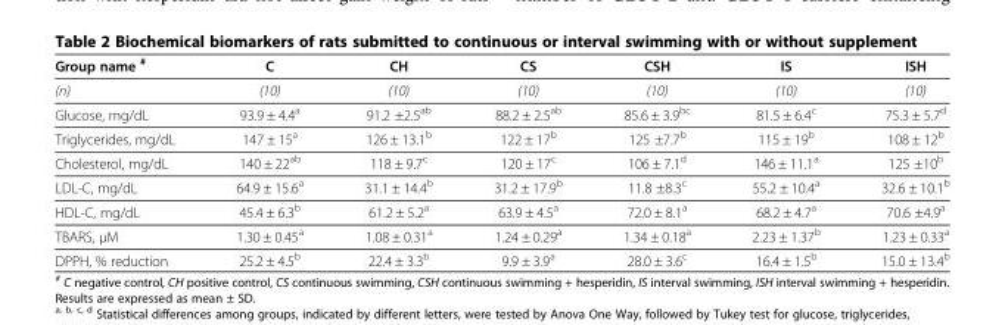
<table><thead><tr><td>Group name <sup>#</sup></td><td>C</td><td>CH</td><td>CS</td><td>CSH</td><td>IS</td><td>ISH</td></tr></thead><tbody><tr><td>(n)</td><td>(10)</td><td>(10)</td><td>(10)</td><td>(10)</td><td>(10)</td><td>(10)</td></tr><tr><td>Glucose, mg/dL</td><td>93.9 ± 4.4<sup>a</sup></td><td>91.2 ±2.5<sup>ab</sup></td><td>88.2 ± 2.5<sup>ab</sup></td><td>85.6 ± 3.9<sup>bc</sup></td><td>81.5 ± 6.4<sup>c</sup></td><td>75.3 ± 5.7<sup>d</sup></td></tr><tr><td>Triglycerides, mg/dL</td><td>147 ± 15<sup>a</sup></td><td>126 ± 13.1<sup>b</sup></td><td>122 ± 17<sup>b</sup></td><td>125 ±7.7<sup>b</sup></td><td>115 ± 19<sup>b</sup></td><td>108 ± 12<sup>b</sup></td></tr><tr><td>Cholesterol, mg/dL</td><td>140 ± 22<sup>ab</sup></td><td>118 ± 9.7<sup>c</sup></td><td>120 ± 17<sup>c</sup></td><td>106 ± 7.1<sup>d</sup></td><td>146 ± 11.1<sup>a</sup></td><td>125 ±10<sup>b</sup></td></tr><tr><td>LDL-C, mg/dL</td><td>64.9 ± 15.6<sup>a</sup></td><td>31.1 ± 14.4<sup>b</sup></td><td>31.2 ± 17.9<sup>b</sup></td><td>11.8 ±8.3<sup>c</sup></td><td>55.2 ± 10.4<sup>a</sup></td><td>32.6 ± 10.1<sup>b</sup></td></tr><tr><td>HDL-C, mg/dL</td><td>45.4 ± 6.3<sup>b</sup></td><td>61.2 ± 5.2<sup>a</sup></td><td>63.9 ± 4.5<sup>a</sup></td><td>72.0 ± 8.1<sup>a</sup></td><td>68.2 ± 4.7<sup>a</sup></td><td>70.6 ±4.9<sup>a</sup></td></tr><tr><td>TBARS, μM</td><td>1.30 ± 0.45<sup>a</sup></td><td>1.08 ± 0.31<sup>a</sup></td><td>1.24 ± 0.29<sup>a</sup></td><td>1.34 ± 0.18<sup>a</sup></td><td>2.23 ± 1.37<sup>b</sup></td><td>1.23 ± 0.33<sup>a</sup></td></tr><tr><td>DPPH, % reduction</td><td>25.2 ± 4.5<sup>b</sup></td><td>22.4 ± 3.3<sup>b</sup></td><td>9.9 ± 3.9<sup>a</sup></td><td>28.0 ± 3.6<sup>c</sup></td><td>16.4 ± 1.5<sup>b</sup></td><td>15.0 ± 13.4<sup>b</sup></td></tr></tbody></table>